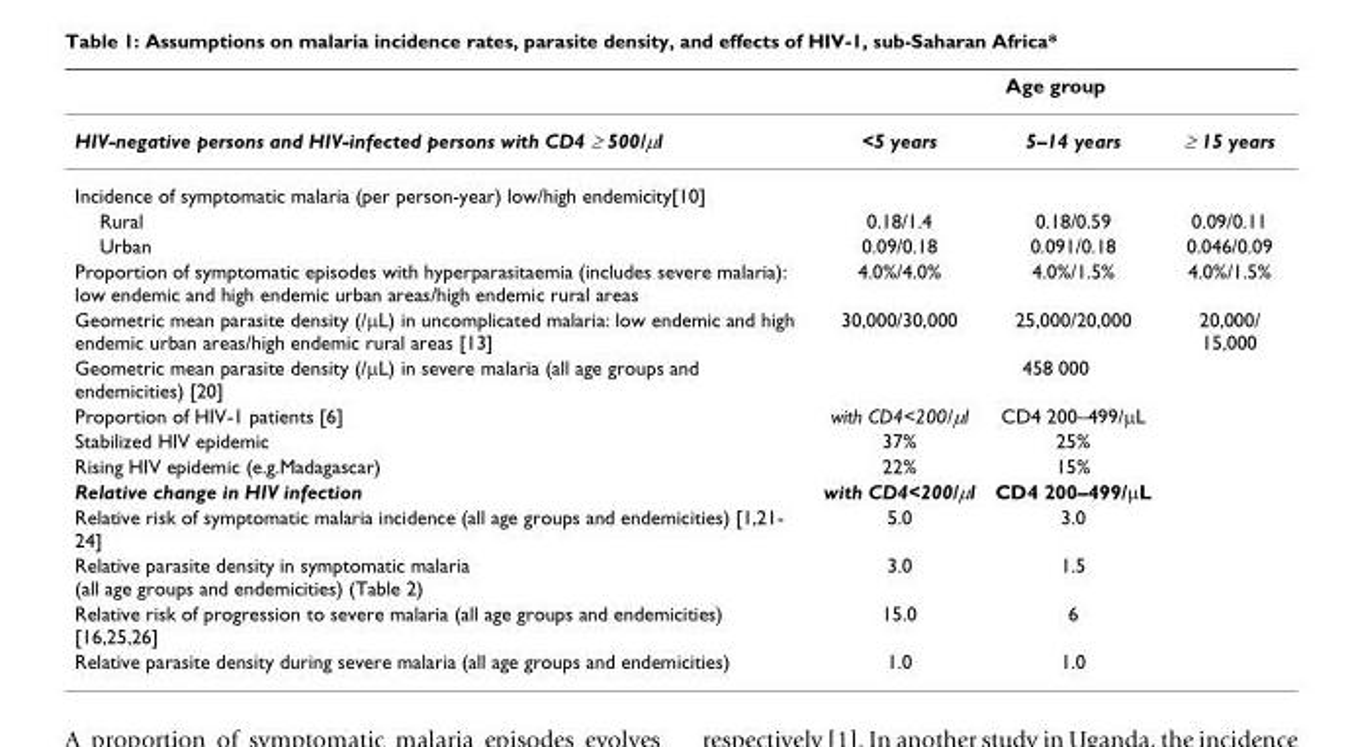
<table><thead><tr><td rowspan="2">HIV-negative persons and HIV-infected persons with CD4 ≥ 500/μl</td><td colspan="3">Age group</td></tr><tr><td>&lt;5 years</td><td>5–14 years</td><td>≥ 15 years</td></tr></thead><tbody><tr><td colspan="4">Incidence of symptomatic malaria (per person-year) low/high endemicity[10]</td></tr><tr><td>Rural</td><td>0.18/1.4</td><td>0.18/0.59</td><td>0.09/0.11</td></tr><tr><td>Urban</td><td>0.09/0.18</td><td>0.091/0.18</td><td>0.046/0.09</td></tr><tr><td>Proportion of symptomatic episodes with hyperparasitaemia (includes severe malaria): low endemic and high endemic urban areas/high endemic rural areas</td><td>4.0%/4.0%</td><td>4.0%/1.5%</td><td>4.0%/1.5%</td></tr><tr><td>Geometric mean parasite density (/μL) in uncomplicated malaria: low endemic and high endemic urban areas/high endemic rural areas [13]</td><td>30,000/30,000</td><td>25,000/20,000</td><td>20,000/ 15,000</td></tr><tr><td>Geometric mean parasite density (/μL) in severe malaria (all age groups and endemicities) [20]</td><td colspan="3">458 000</td></tr><tr><td>Proportion of HIV-1 patients [6]</td><td>with CD4&lt;200/μl</td><td>CD4 200–499/μL</td><td></td></tr><tr><td>Stabilized HIV epidemic</td><td>37%</td><td>25%</td><td></td></tr><tr><td>Rising HIV epidemic (e.g.Madagascar)</td><td>22%</td><td>15%</td><td></td></tr><tr><td>Relative change in HIV infection</td><td>with CD4&lt;200/μl</td><td>CD4 200–499/μL</td><td></td></tr><tr><td>Relative risk of symptomatic malaria incidence (all age groups and endemicities) [1,21- 24]</td><td>5.0</td><td>3.0</td><td></td></tr><tr><td>Relative parasite density in symptomatic malaria (all age groups and endemicities) (Table 2)</td><td>3.0</td><td>1.5</td><td></td></tr><tr><td>Relative risk of progression to severe malaria (all age groups and endemicities) [16,25,26]</td><td>15.0</td><td>6</td><td></td></tr><tr><td>Relative parasite density during severe malaria (all age groups and endemicities)</td><td>1.0</td><td>1.0</td><td></td></tr></tbody></table>